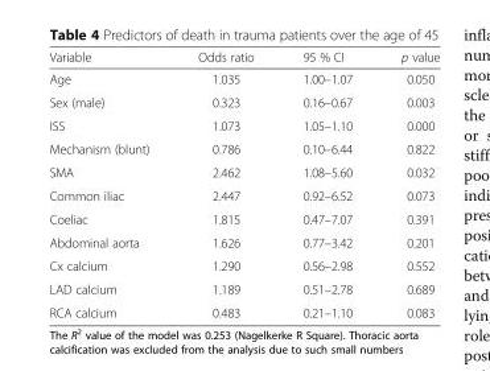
<table><thead><tr><td>Variable</td><td>Odds ratio</td><td>95 % CI</td><td>p value</td></tr></thead><tbody><tr><td>Age</td><td>1.035</td><td>1.00–1.07</td><td>0.050</td></tr><tr><td>Sex (male)</td><td>0.323</td><td>0.16–0.67</td><td>0.003</td></tr><tr><td>ISS</td><td>1.073</td><td>1.05–1.10</td><td>0.000</td></tr><tr><td>Mechanism (blunt)</td><td>0.786</td><td>0.10–6.44</td><td>0.822</td></tr><tr><td>SMA</td><td>2.462</td><td>1.08–5.60</td><td>0.032</td></tr><tr><td>Common iliac</td><td>2.447</td><td>0.92–6.52</td><td>0.073</td></tr><tr><td>Coeliac</td><td>1.815</td><td>0.47–7.07</td><td>0.391</td></tr><tr><td>Abdominal aorta</td><td>1.626</td><td>0.77–3.42</td><td>0.201</td></tr><tr><td>Cx calcium</td><td>1.290</td><td>0.56–2.98</td><td>0.552</td></tr><tr><td>LAD calcium</td><td>1.189</td><td>0.51–2.78</td><td>0.689</td></tr><tr><td>RCA calcium</td><td>0.483</td><td>0.21–1.10</td><td>0.083</td></tr></tbody></table>